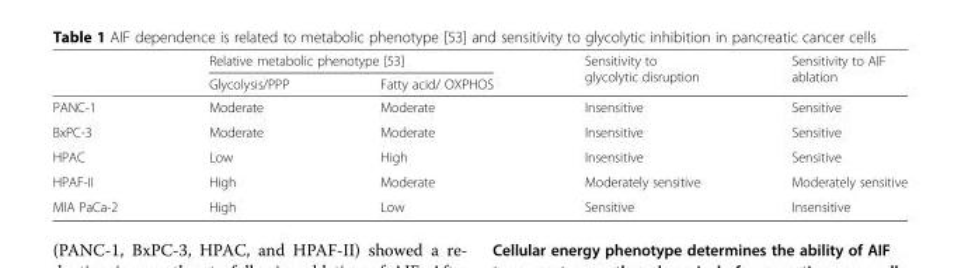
<table><thead><tr><td rowspan="2"></td><td colspan="2">Relative metabolic phenotype [53]</td><td rowspan="2">Sensitivity to glycolytic disruption</td><td rowspan="2">Sensitivity to AIF ablation</td></tr><tr><td>Glycolysis/PPP</td><td>Fatty acid/ OXPHOS</td></tr></thead><tbody><tr><td>PANC-1</td><td>Moderate</td><td>Moderate</td><td>Insensitive</td><td>Sensitive</td></tr><tr><td>BxPC-3</td><td>Moderate</td><td>Moderate</td><td>Insensitive</td><td>Sensitive</td></tr><tr><td>HPAC</td><td>Low</td><td>High</td><td>Insensitive</td><td>Sensitive</td></tr><tr><td>HPAF-II</td><td>High</td><td>Moderate</td><td>Moderately sensitive</td><td>Moderately sensitive</td></tr><tr><td>MIA PaCa-2</td><td>High</td><td>Low</td><td>Sensitive</td><td>Insensitive</td></tr></tbody></table>